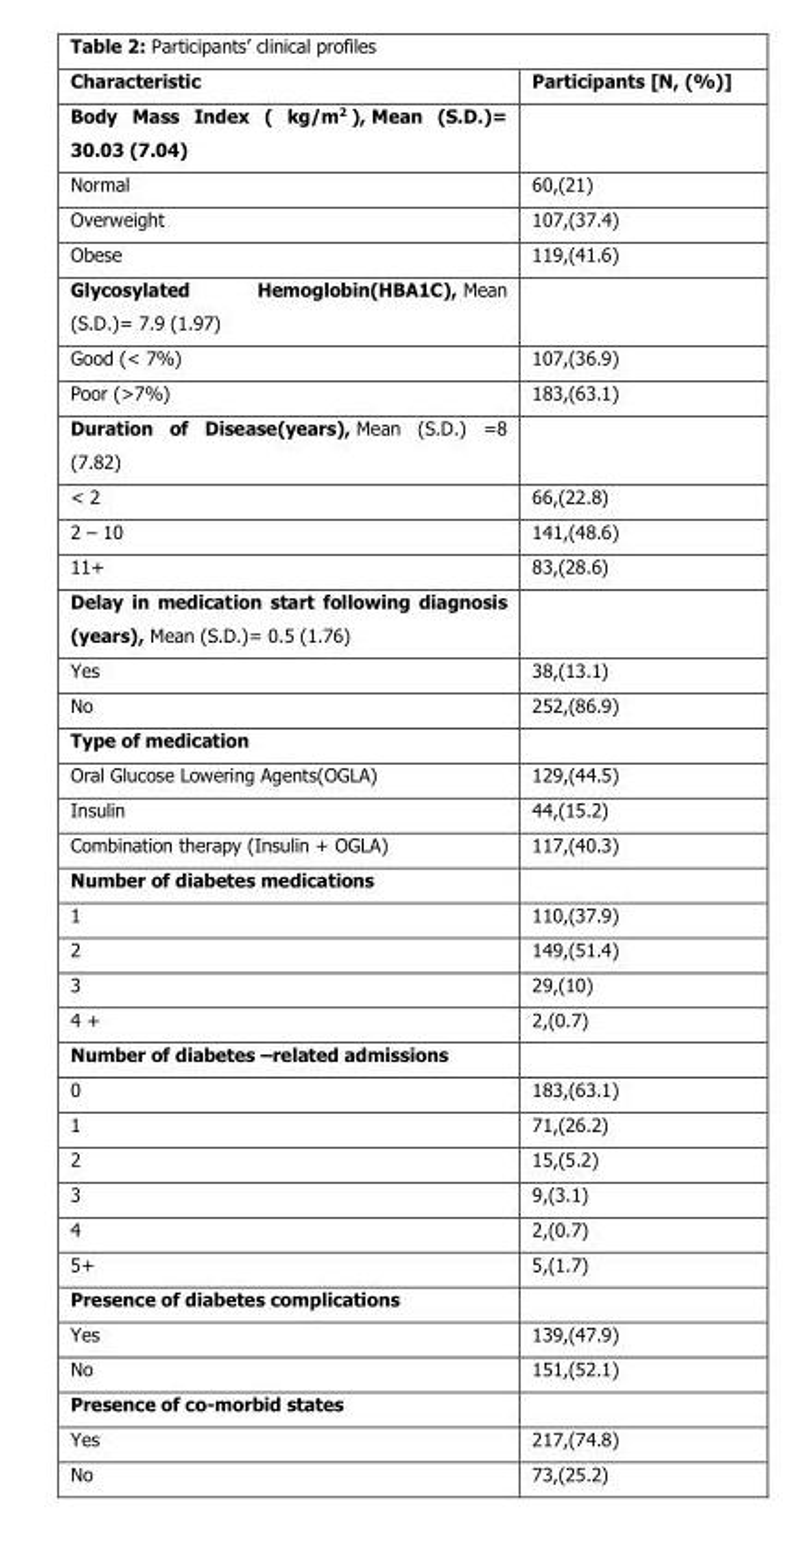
<table><thead><tr><td>Characteristic</td><td>Participants [N, (%)]</td></tr></thead><tbody><tr><td colspan="2">Body Mass Index ( kg/m<sup>2</sup> ), Mean (S.D.)= 30.03 (7.04)</td></tr><tr><td>Normal</td><td>60,(21)</td></tr><tr><td>Overweight</td><td>107,(37.4)</td></tr><tr><td>Obese</td><td>119,(41.6)</td></tr><tr><td colspan="2">Glycosylated Hemoglobin(HBA1C), Mean (S.D.)= 7.9 (1.97)</td></tr><tr><td>Good (&lt; 7%)</td><td>107,(36.9)</td></tr><tr><td>Poor (&gt;7%)</td><td>183,(63.1)</td></tr><tr><td colspan="2">Duration of Disease(years), Mean (S.D.) =8 (7.82)</td></tr><tr><td>&lt; 2</td><td>66,(22.8)</td></tr><tr><td>2 – 10</td><td>141,(48.6)</td></tr><tr><td>11+</td><td>83,(28.6)</td></tr><tr><td colspan="2">Delay in medication start following diagnosis (years), Mean (S.D.)= 0.5 (1.76)</td></tr><tr><td>Yes</td><td>38,(13.1)</td></tr><tr><td>No</td><td>252,(86.9)</td></tr><tr><td colspan="2">Type of medication</td></tr><tr><td>Oral Glucose Lowering Agents(OGLA)</td><td>129,(44.5)</td></tr><tr><td>Insulin</td><td>44,(15.2)</td></tr><tr><td>Combination therapy (Insulin + OGLA)</td><td>117,(40.3)</td></tr><tr><td colspan="2">Number of diabetes medications</td></tr><tr><td>1</td><td>110,(37.9)</td></tr><tr><td>2</td><td>149,(51.4)</td></tr><tr><td>3</td><td>29,(10)</td></tr><tr><td>4 +</td><td>2,(0.7)</td></tr><tr><td colspan="2">Number of diabetes –related admissions</td></tr><tr><td>0</td><td>183,(63.1)</td></tr><tr><td>1</td><td>71,(26.2)</td></tr><tr><td>2</td><td>15,(5.2)</td></tr><tr><td>3</td><td>9,(3.1)</td></tr><tr><td>4</td><td>2,(0.7)</td></tr><tr><td>5+</td><td>5,(1.7)</td></tr><tr><td colspan="2">Presence of diabetes complications</td></tr><tr><td>Yes</td><td>139,(47.9)</td></tr><tr><td>No</td><td>151,(52.1)</td></tr><tr><td colspan="2">Presence of co-morbid states</td></tr><tr><td>Yes</td><td>217,(74.8)</td></tr><tr><td>No</td><td>73,(25.2)</td></tr></tbody></table>